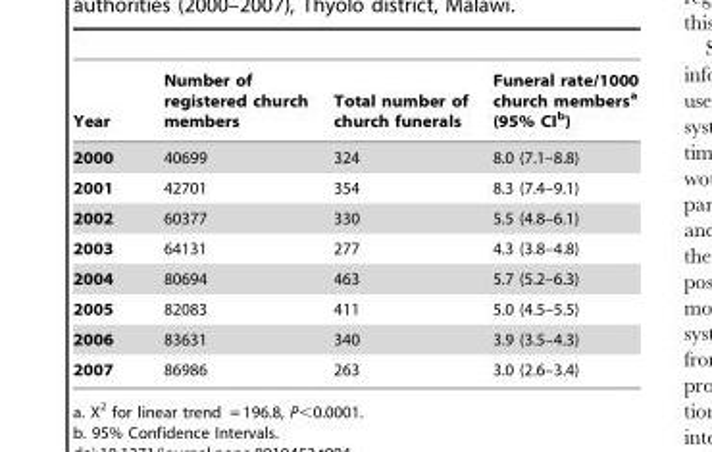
<table><thead><tr><td>Year</td><td>Number of registered church members</td><td>Total number of church funerals</td><td>Funeral rate/1000 church members<sup>a</sup> (95% CI<sup>b</sup>)</td></tr></thead><tbody><tr><td>2000</td><td>40699</td><td>324</td><td>8.0 (7.1–8.8)</td></tr><tr><td>2001</td><td>42701</td><td>354</td><td>8.3 (7.4–9.1)</td></tr><tr><td>2002</td><td>60377</td><td>330</td><td>5.5 (4.8–6.1)</td></tr><tr><td>2003</td><td>64131</td><td>277</td><td>4.3 (3.8–4.8)</td></tr><tr><td>2004</td><td>80694</td><td>463</td><td>5.7 (5.2–6.3)</td></tr><tr><td>2005</td><td>82083</td><td>411</td><td>5.0 (4.5–5.5)</td></tr><tr><td>2006</td><td>83631</td><td>340</td><td>3.9 (3.5–4.3)</td></tr><tr><td>2007</td><td>86986</td><td>263</td><td>3.0 (2.6–3.4)</td></tr></tbody></table>